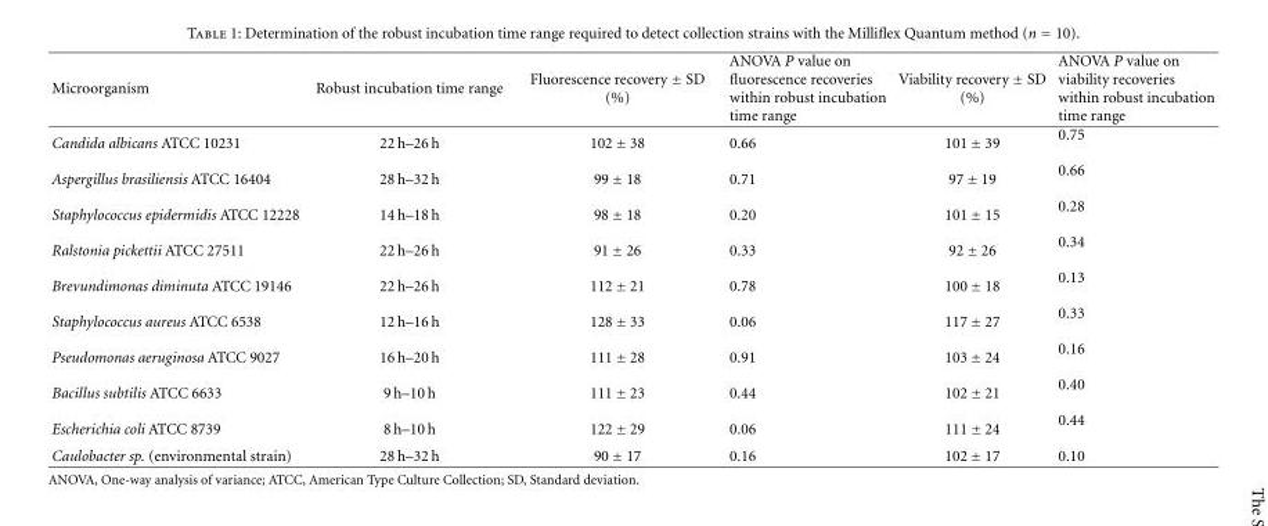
<table><thead><tr><td>Microorganism</td><td>Robust incubation time range</td><td>Fluorescence recovery ± SD (%)</td><td>ANOVA P value on fluorescence recoveries within robust incubation time range</td><td>Viability recovery ± SD (%)</td><td>ANOVA P value on viability recoveries within robust incubation time range</td></tr></thead><tbody><tr><td>Candida albicans ATCC 10231</td><td>22 h–26 h</td><td>102 ± 38</td><td>0.66</td><td>101 ± 39</td><td>0.75</td></tr><tr><td>Aspergillus brasiliensis ATCC 16404</td><td>28 h–32 h</td><td>99 ± 18</td><td>0.71</td><td>97 ± 19</td><td>0.66</td></tr><tr><td>Staphylococcus epidermidis ATCC 12228</td><td>14 h–18 h</td><td>98 ± 18</td><td>0.20</td><td>101 ± 15</td><td>0.28</td></tr><tr><td>Ralstonia pickettii ATCC 27511</td><td>22 h–26 h</td><td>91 ± 26</td><td>0.33</td><td>92 ± 26</td><td>0.34</td></tr><tr><td>Brevundimonas diminuta ATCC 19146</td><td>22 h–26 h</td><td>112 ± 21</td><td>0.78</td><td>100 ± 18</td><td>0.13</td></tr><tr><td>Staphylococcus aureus ATCC 6538</td><td>12 h–16 h</td><td>128 ± 33</td><td>0.06</td><td>117 ± 27</td><td>0.33</td></tr><tr><td>Pseudomonas aeruginosa ATCC 9027</td><td>16 h–20 h</td><td>111 ± 28</td><td>0.91</td><td>103 ± 24</td><td>0.16</td></tr><tr><td>Bacillus subtilis ATCC 6633</td><td>9 h–10 h</td><td>111 ± 23</td><td>0.44</td><td>102 ± 21</td><td>0.40</td></tr><tr><td>Escherichia coli ATCC 8739</td><td>8 h–10 h</td><td>122 ± 29</td><td>0.06</td><td>111 ± 24</td><td>0.44</td></tr><tr><td>Caulobacter sp. (environmental strain)</td><td>28 h–32 h</td><td>90 ± 17</td><td>0.16</td><td>102 ± 17</td><td>0.10</td></tr></tbody></table>